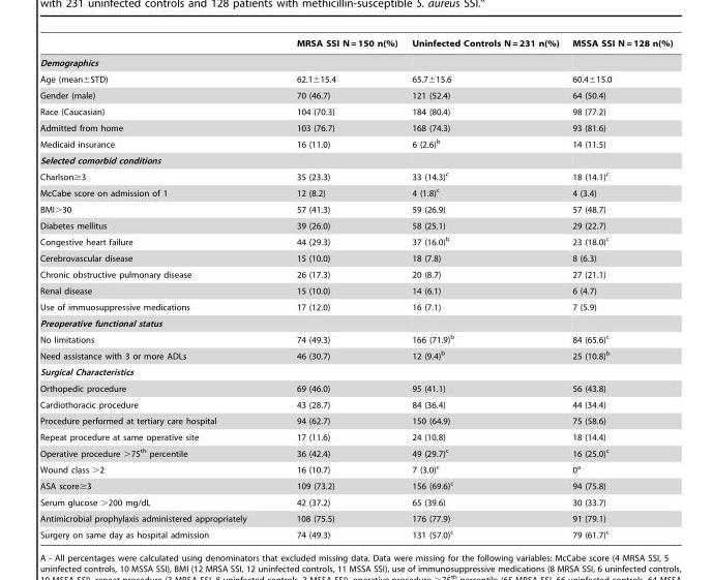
<table><thead><tr><td></td><td>MRSA SSI N = 150 n(%)</td><td>Uninfected Controls N = 231 n(%)</td><td>MSSA SSI N = 128 n(%)</td></tr></thead><tbody><tr><td colspan="4">Demographics</td></tr><tr><td>Age (mean±STD)</td><td>62.1±15.4</td><td>65.7±15.6</td><td>60.4±15.0</td></tr><tr><td>Gender (male)</td><td>70 (46.7)</td><td>121 (52.4)</td><td>64 (50.4)</td></tr><tr><td>Race (Caucasian)</td><td>104 (70.3)</td><td>184 (80.4)</td><td>98 (77.2)</td></tr><tr><td>Admitted from home</td><td>103 (76.7)</td><td>168 (74.3)</td><td>93 (81.6)</td></tr><tr><td>Medicaid insurance</td><td>16 (11.0)</td><td>6 (2.6)<sup>b</sup></td><td>14 (11.5)</td></tr><tr><td colspan="4">Selected comorbid conditions</td></tr><tr><td>Charlson≥3</td><td>35 (23.3)</td><td>33 (14.3)<sup>c</sup></td><td>18 (14.1)<sup>c</sup></td></tr><tr><td>McCabe score on admission of 1</td><td>12 (8.2)</td><td>4 (1.8)<sup>c</sup></td><td>4 (3.4)</td></tr><tr><td>BMI&gt;30</td><td>57 (41.3)</td><td>59 (26.9)</td><td>57 (48.7)</td></tr><tr><td>Diabetes mellitus</td><td>39 (26.0)</td><td>58 (25.1)</td><td>29 (22.7)</td></tr><tr><td>Congestive heart failure</td><td>44 (29.3)</td><td>37 (16.0)<sup>b</sup></td><td>23 (18.0)<sup>c</sup></td></tr><tr><td>Cerebrovascular disease</td><td>15 (10.0)</td><td>18 (7.8)</td><td>8 (6.3)</td></tr><tr><td>Chronic obstructive pulmonary disease</td><td>26 (17.3)</td><td>20 (8.7)</td><td>27 (21.1)</td></tr><tr><td>Renal disease</td><td>15 (10.0)</td><td>14 (6.1)</td><td>6 (4.7)</td></tr><tr><td>Use of immuosuppressive medications</td><td>17 (12.0)</td><td>16 (7.1)</td><td>7 (5.9)</td></tr><tr><td colspan="4">Preoperative functional status</td></tr><tr><td>No limitations</td><td>74 (49.3)</td><td>166 (71.9)<sup>b</sup></td><td>84 (65.6)<sup>c</sup></td></tr><tr><td>Need assistance with 3 or more ADLs</td><td>46 (30.7)</td><td>12 (9.4)<sup>b</sup></td><td>25 (10.8)<sup>b</sup></td></tr><tr><td colspan="4">Surgical Characteristics</td></tr><tr><td>Orthopedic procedure</td><td>69 (46.0)</td><td>95 (41.1)</td><td>56 (43.8)</td></tr><tr><td>Cardiothoracic procedure</td><td>43 (28.7)</td><td>84 (36.4)</td><td>44 (34.4)</td></tr><tr><td>Procedure performed at tertiary care hospital</td><td>94 (62.7)</td><td>150 (64.9)</td><td>75 (58.6)</td></tr><tr><td>Repeat procedure at same operative site</td><td>17 (11.6)</td><td>24 (10.8)</td><td>18 (14.4)</td></tr><tr><td>Operative procedure &gt;75<sup>th</sup> percentile</td><td>36 (42.4)</td><td>49 (29.7)<sup>c</sup></td><td>16 (25.0)<sup>c</sup></td></tr><tr><td>Wound class &gt;2</td><td>16 (10.7)</td><td>7 (3.0)<sup>c</sup></td><td>0<sup>a</sup></td></tr><tr><td>ASA score≥3</td><td>109 (73.2)</td><td>156 (69.6)<sup>c</sup></td><td>94 (75.8)</td></tr><tr><td>Serum glucose &gt;200 mg/dL</td><td>42 (37.2)</td><td>65 (39.6)</td><td>30 (33.7)</td></tr><tr><td>Antimicrobial prophylaxis administered appropriately</td><td>108 (75.5)</td><td>176 (77.9)</td><td>91 (79.1)</td></tr><tr><td>Surgery on same day as hospital admission</td><td>74 (49.3)</td><td>131 (57.0)<sup>c</sup></td><td>79 (61.7)<sup>c</sup></td></tr></tbody></table>